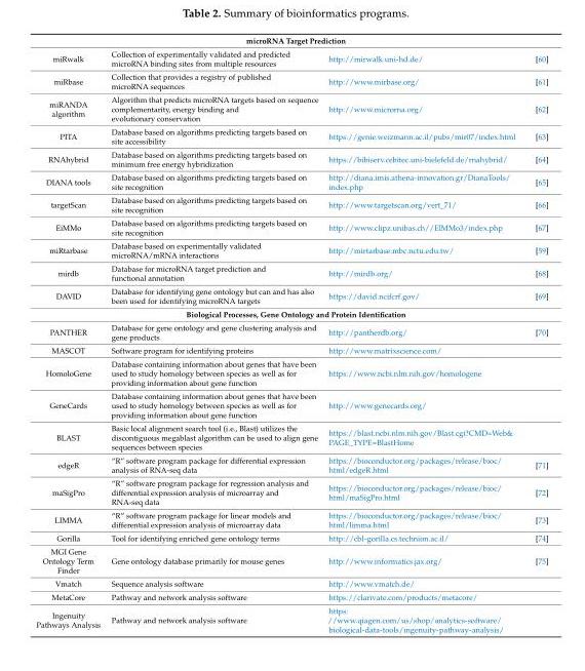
<table><tbody><tr><td colspan="4">microRNA Target Prediction</td></tr><tr><td>miRwalk</td><td>Collection of experimentally validated and predicted microRNA binding sites from multiple resources</td><td>http://mirwalk.uni-hd.de/</td><td>[60]</td></tr><tr><td>miRbase</td><td>Collection that provides a registry of published microRNA sequences</td><td>http://www.mirbase.org/</td><td>[61]</td></tr><tr><td>miRANDA algorithm</td><td>Algorithm that predicts microRNA targets based on sequence complementarity, energy binding and evolutionary conservation</td><td>http://www.microrna.org/</td><td>[62]</td></tr><tr><td>PITA</td><td>Database based on algorithms predicting targets based on site accessibility</td><td>https://genie.weizmann.ac.il/pubs/mir07/index.html</td><td>[63]</td></tr><tr><td>RNAhybrid</td><td>Database based on algorithms predicting targets based on minimum free energy hybridization</td><td>https://bibiserv.cebitec.uni-bielefeld.de/rnahybrid/</td><td>[64]</td></tr><tr><td>DIANA tools</td><td>Database based on algorithms predicting targets based on site recognition</td><td>http://diana.imis.athena-innovation.gr/DianaTools/ index.php</td><td>[65]</td></tr><tr><td>targetScan</td><td>Database based on algorithms predicting targets based on site recognition</td><td>http://www.targetscan.org/vert_71/</td><td>[66]</td></tr><tr><td>EiMMo</td><td>Database based on algorithms predicting targets based on site recognition</td><td>http://www.clipz.unibas.ch//ElMMo3/index.php</td><td>[67]</td></tr><tr><td>miRtarbase</td><td>Database based on experimentally validated microRNA/mRNA interactions</td><td>http://mirtarbase.mbc.nctu.edu.tw/</td><td>[59]</td></tr><tr><td>mirdb</td><td>Database for microRNA target prediction and functional annotation</td><td>http://mirdb.org/</td><td>[68]</td></tr><tr><td>DAVID</td><td>Database for identifying gene ontology but can and has also been used for identifying microRNA targets</td><td>https://david.ncifcrf.gov/</td><td>[69]</td></tr><tr><td colspan="4">Biological Processes, Gene Ontology and Protein Identification</td></tr><tr><td>PANTHER</td><td>Database for gene ontology and gene clustering analysis and gene products</td><td>http://pantherdb.org/</td><td>[70]</td></tr><tr><td>MASCOT</td><td>Software program for identifying proteins</td><td>http://www.matrixscience.com/</td><td></td></tr><tr><td>HomoloGene</td><td>Database containing information about genes that have been used to study homology between species as well as for providing information about gene function</td><td>https://www.ncbi.nlm.nih.gov/homologene</td><td></td></tr><tr><td>GeneCards</td><td>Database containing information about genes that have been used to study homology between species as well as for providing information about gene function</td><td>http://www.genecards.org/</td><td></td></tr><tr><td>BLAST</td><td>Basic local alignment search tool (i.e., Blast) utilizes the discontiguous megablast algorithm can be used to align gene sequences between species</td><td>https://blast.ncbi.nlm.nih.gov/Blast.cgi?CMD=Web&amp; PAGE_TYPE=BlastHome</td><td></td></tr><tr><td>edgeR</td><td>“R” software program package for differential expression analysis of RNA-seq data</td><td>https://bioconductor.org/packages/release/bioc/ html/edgeR.html</td><td>[71]</td></tr><tr><td>maSigPro</td><td>“R” software program package for regression analysis and differential expression analysis of microarray and RNA-seq data</td><td>https://bioconductor.org/packages/release/bioc/ html/maSigPro.html</td><td>[72]</td></tr><tr><td>LIMMA</td><td>“R” software program package for linear models and differential expression analysis of microarray data</td><td>https://bioconductor.org/packages/release/bioc/ html/limma.html</td><td>[73]</td></tr><tr><td>Gorilla</td><td>Tool for identifying enriched gene ontology terms</td><td>http://cbl-gorilla.cs.technion.ac.il/</td><td>[74]</td></tr><tr><td>MGI Gene Ontology Term Finder</td><td>Gene ontology database primarily for mouse genes</td><td>http://www.informatics.jax.org/</td><td>[75]</td></tr><tr><td>Vmatch</td><td>Sequence analysis software</td><td>http://www.vmatch.de/</td><td></td></tr><tr><td>MetaCore</td><td>Pathway and network analysis software</td><td>https://clarivate.com/products/metacore/</td><td></td></tr><tr><td>Ingenuity Pathways Analysis</td><td>Pathway and network analysis software</td><td>https: //www.qiagen.com/us/shop/analytics-software/ biological-data-tools/ingenuity-pathway-analysis/</td><td></td></tr></tbody></table>